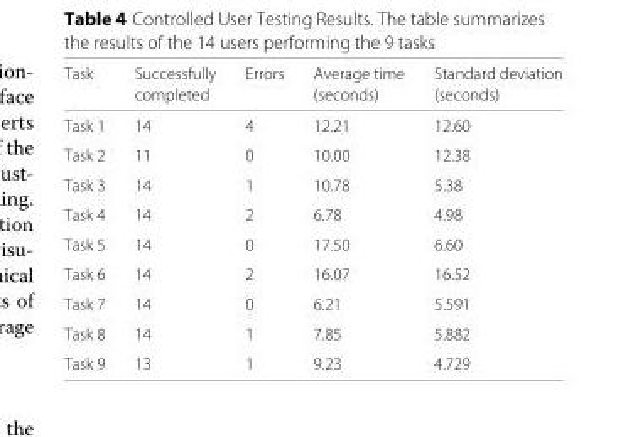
<table><thead><tr><td rowspan="2">Task</td><td rowspan="2">Successfully completed</td><td rowspan="2">Errors</td><td rowspan="2">Average time (seconds)</td><td rowspan="2">Standard deviation (seconds)</td></tr><tr></tr></thead><tbody><tr><td>Task 1</td><td>14</td><td>4</td><td>12.21</td><td>12.60</td></tr><tr><td>Task 2</td><td>11</td><td>0</td><td>10.00</td><td>12.38</td></tr><tr><td>Task 3</td><td>14</td><td>1</td><td>10.78</td><td>5.38</td></tr><tr><td>Task 4</td><td>14</td><td>2</td><td>6.78</td><td>4.98</td></tr><tr><td>Task 5</td><td>14</td><td>0</td><td>17.50</td><td>6.60</td></tr><tr><td>Task 6</td><td>14</td><td>2</td><td>16.07</td><td>16.52</td></tr><tr><td>Task 7</td><td>14</td><td>0</td><td>6.21</td><td>5.591</td></tr><tr><td>Task 8</td><td>14</td><td>1</td><td>7.85</td><td>5.882</td></tr><tr><td>Task 9</td><td>13</td><td>1</td><td>9.23</td><td>4.729</td></tr></tbody></table>